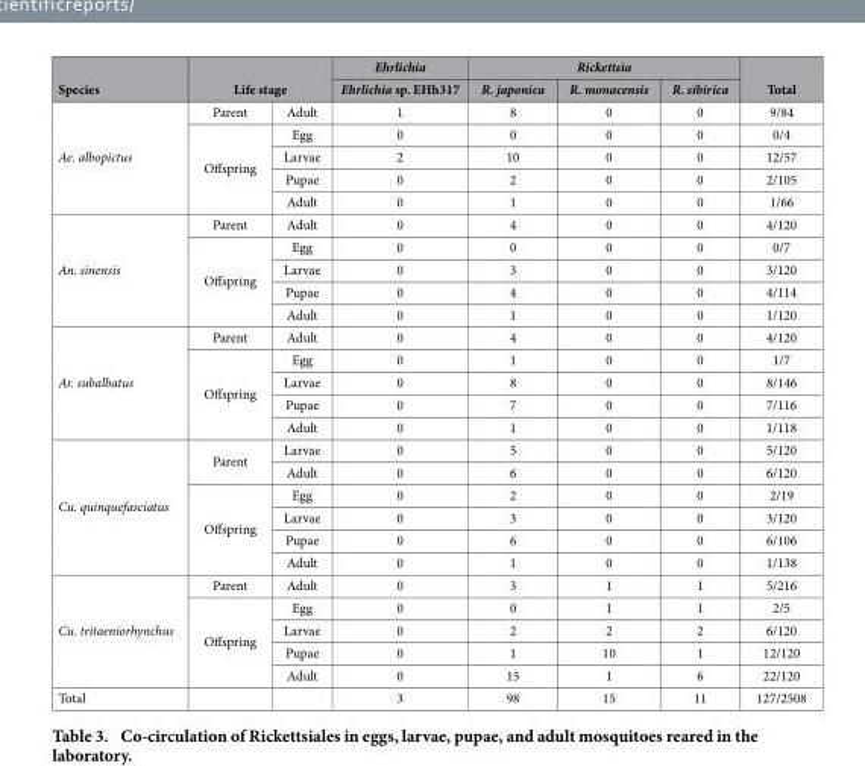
<table><thead><tr><td rowspan="2">Species</td><td></td><td></td><td rowspan="2">Ehrlichia Ehrlichia sp. EHh317</td><td colspan="3">Rickettsia</td><td rowspan="2">Total</td></tr><tr><td colspan="2">Life stage</td><td>R. japonica</td><td>R. monacensis</td><td>R. sibirica</td></tr></thead><tbody><tr><td rowspan="5">Ae. albopictus</td><td>Parent</td><td>Adult</td><td>1</td><td>8</td><td>0</td><td>0</td><td>9/84</td></tr><tr><td rowspan="4">Offspring</td><td>Egg</td><td>0</td><td>0</td><td>0</td><td>0</td><td>0/4</td></tr><tr><td>Larvae</td><td>2</td><td>10</td><td>0</td><td>0</td><td>12/57</td></tr><tr><td>Pupae</td><td>0</td><td>2</td><td>0</td><td>0</td><td>2/105</td></tr><tr><td>Adult</td><td>0</td><td>1</td><td>0</td><td>0</td><td>1/66</td></tr><tr><td rowspan="5">An. sinensis</td><td>Parent</td><td>Adult</td><td>0</td><td>4</td><td>0</td><td>0</td><td>4/120</td></tr><tr><td rowspan="4">Offspring</td><td>Egg</td><td>0</td><td>0</td><td>0</td><td>0</td><td>0/7</td></tr><tr><td>Larvae</td><td>0</td><td>3</td><td>0</td><td>0</td><td>3/120</td></tr><tr><td>Pupae</td><td>0</td><td>4</td><td>0</td><td>0</td><td>4/114</td></tr><tr><td>Adult</td><td>0</td><td>1</td><td>0</td><td>0</td><td>1/120</td></tr><tr><td rowspan="5">Ar. subalbatus</td><td>Parent</td><td>Adult</td><td>0</td><td>4</td><td>0</td><td>0</td><td>4/120</td></tr><tr><td rowspan="4">Offspring</td><td>Egg</td><td>0</td><td>1</td><td>0</td><td>0</td><td>1/7</td></tr><tr><td>Larvae</td><td>0</td><td>8</td><td>0</td><td>0</td><td>8/146</td></tr><tr><td>Pupae</td><td>0</td><td>7</td><td>0</td><td>0</td><td>7/116</td></tr><tr><td>Adult</td><td>0</td><td>1</td><td>0</td><td>0</td><td>1/118</td></tr><tr><td rowspan="6">Cu. quinquefasciatus</td><td rowspan="2">Parent</td><td>Larvae</td><td>0</td><td>5</td><td>0</td><td>0</td><td>5/120</td></tr><tr><td>Adult</td><td>0</td><td>6</td><td>0</td><td>0</td><td>6/120</td></tr><tr><td rowspan="4">Offspring</td><td>Egg</td><td>0</td><td>2</td><td>0</td><td>0</td><td>2/19</td></tr><tr><td>Larvae</td><td>0</td><td>3</td><td>0</td><td>0</td><td>3/120</td></tr><tr><td>Pupae</td><td>0</td><td>6</td><td>0</td><td>0</td><td>6/106</td></tr><tr><td>Adult</td><td>0</td><td>1</td><td>0</td><td>0</td><td>1/138</td></tr><tr><td rowspan="5">Cu. tritaeniorhynchus</td><td>Parent</td><td>Adult</td><td>0</td><td>3</td><td>1</td><td>1</td><td>5/216</td></tr><tr><td rowspan="4">Offspring</td><td>Egg</td><td>0</td><td>0</td><td>1</td><td>1</td><td>2/5</td></tr><tr><td>Larvae</td><td>0</td><td>2</td><td>2</td><td>2</td><td>6/120</td></tr><tr><td>Pupae</td><td>0</td><td>1</td><td>10</td><td>1</td><td>12/120</td></tr><tr><td>Adult</td><td>0</td><td>15</td><td>1</td><td>6</td><td>22/120</td></tr><tr><td>Total</td><td></td><td></td><td>3</td><td>98</td><td>15</td><td>11</td><td>127/2508</td></tr></tbody></table>